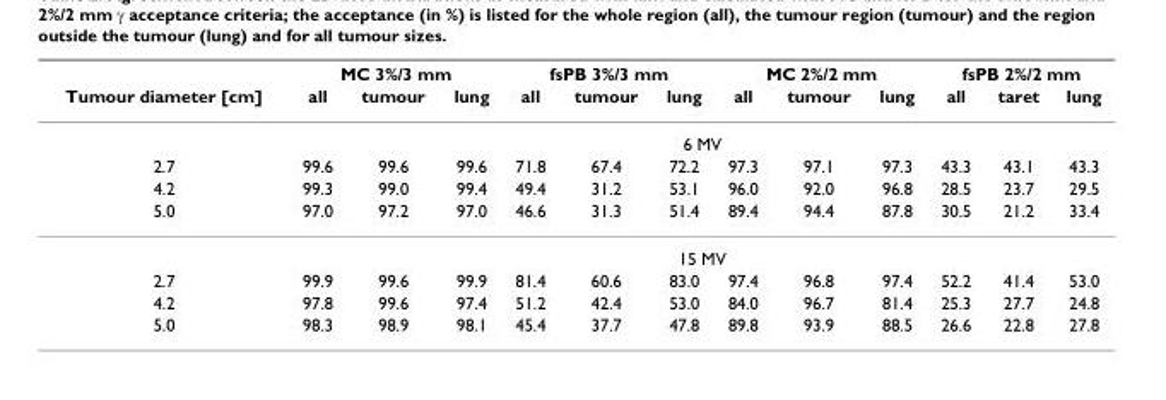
<table><thead><tr><td rowspan="2">Tumour diameter [cm]</td><td colspan="3">MC 3%/3 mm</td><td colspan="3">fsPB 3%/3 mm</td><td colspan="3">MC 2%/2 mm</td><td colspan="3">fsPB 2%/2 mm</td></tr><tr><td>all</td><td>tumour</td><td>lung</td><td>all</td><td>tumour</td><td>lung</td><td>all</td><td>tumour</td><td>lung</td><td>all</td><td>taret</td><td>lung</td></tr></thead><tbody><tr><td></td><td colspan="12">6 MV</td></tr><tr><td>2.7</td><td>99.6</td><td>99.6</td><td>99.6</td><td>71.8</td><td>67.4</td><td>72.2</td><td>97.3</td><td>97.1</td><td>97.3</td><td>43.3</td><td>43.1</td><td>43.3</td></tr><tr><td>4.2</td><td>99.3</td><td>99.0</td><td>99.4</td><td>49.4</td><td>31.2</td><td>53.1</td><td>96.0</td><td>92.0</td><td>96.8</td><td>28.5</td><td>23.7</td><td>29.5</td></tr><tr><td rowspan="2">5.0</td><td>97.0</td><td>97.2</td><td>97.0</td><td>46.6</td><td>31.3</td><td>51.4</td><td>89.4</td><td>94.4</td><td>87.8</td><td>30.5</td><td>21.2</td><td>33.4</td></tr><tr><td colspan="12">15 MV</td></tr><tr><td>2.7</td><td>99.9</td><td>99.6</td><td>99.9</td><td>81.4</td><td>60.6</td><td>83.0</td><td>97.4</td><td>96.8</td><td>97.4</td><td>52.2</td><td>41.4</td><td>53.0</td></tr><tr><td>4.2</td><td>97.8</td><td>99.6</td><td>97.4</td><td>51.2</td><td>42.4</td><td>53.0</td><td>84.0</td><td>96.7</td><td>81.4</td><td>25.3</td><td>27.7</td><td>24.8</td></tr><tr><td>5.0</td><td>98.3</td><td>98.9</td><td>98.1</td><td>45.4</td><td>37.7</td><td>47.8</td><td>89.8</td><td>93.9</td><td>88.5</td><td>26.6</td><td>22.8</td><td>27.8</td></tr></tbody></table>